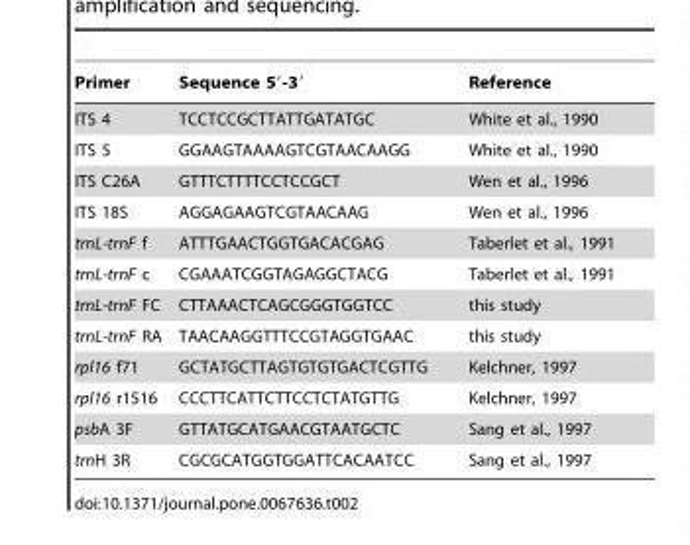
<table><thead><tr><td>Primer</td><td>Sequence 5′-3′</td><td>Reference</td></tr></thead><tbody><tr><td>ITS 4</td><td>TCCTCCGCTTATTGATATGC</td><td>White et al., 1990</td></tr><tr><td>ITS 5</td><td>GGAAGTAAAAGTCGTAACAAGG</td><td>White et al., 1990</td></tr><tr><td>ITS C26A</td><td>GTTTCTTTTCCTCCGCT</td><td>Wen et al., 1996</td></tr><tr><td>ITS 18S</td><td>AGGAGAAGTCGTAACAAG</td><td>Wen et al., 1996</td></tr><tr><td>trnL-trnF f</td><td>ATTTGAACTGGTGACACGAG</td><td>Taberlet et al., 1991</td></tr><tr><td>trnL-trnF c</td><td>CGAAATCGGTAGAGGCTACG</td><td>Taberlet et al., 1991</td></tr><tr><td>trnL-trnF FC</td><td>CTTAAACTCAGCGGGTGGTCC</td><td>this study</td></tr><tr><td>trnL-trnF RA</td><td>TAACAAGGTTTCCGTAGGTGAAC</td><td>this study</td></tr><tr><td>rpl16 f71</td><td>GCTATGCTTAGTGTGTGACTCGTTG</td><td>Kelchner, 1997</td></tr><tr><td>rpl16 r1516</td><td>CCCTTCATTCTTCCTCTATGTTG</td><td>Kelchner, 1997</td></tr><tr><td>psbA 3F</td><td>GTTATGCATGAACGTAATGCTC</td><td>Sang et al., 1997</td></tr><tr><td>trnH 3R</td><td>CGCGCATGGTGGATTCACAATCC</td><td>Sang et al., 1997</td></tr></tbody></table>